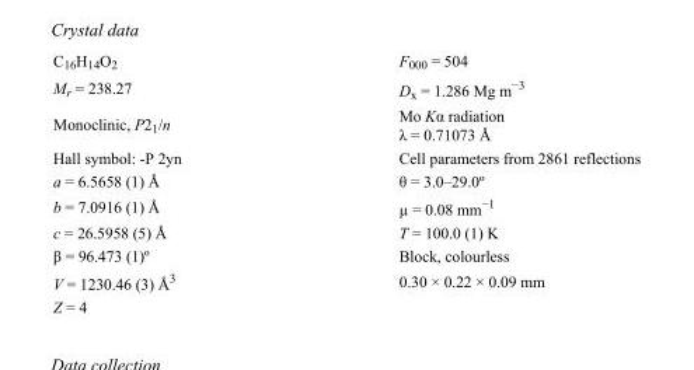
<table><tbody><tr><td>C<sub>16</sub>H<sub>14</sub>O<sub>2</sub></td><td>F<sub>000</sub> = 504</td></tr><tr><td>M<sub>r</sub> = 238.27</td><td>D<sub>x</sub> = 1.286 Mg m<sup>−3</sup></td></tr><tr><td>Monoclinic, P2<sub>1</sub>/n</td><td>Mo Kα radiation λ = 0.71073 Å</td></tr><tr><td>Hall symbol: -P 2yn</td><td>Cell parameters from 2861 reflections</td></tr><tr><td>a = 6.5658 (1) Å</td><td>θ = 3.0–29.0º</td></tr><tr><td>b = 7.0916 (1) Å</td><td>µ = 0.08 mm<sup>−1</sup></td></tr><tr><td>c = 26.5958 (5) Å</td><td>T = 100.0 (1) K</td></tr><tr><td>β = 96.473 (1)º</td><td>Block, colourless</td></tr><tr><td>V = 1230.46 (3) Å<sup>3</sup></td><td>0.30 × 0.22 × 0.09 mm</td></tr><tr><td>Z = 4</td><td></td></tr></tbody></table>